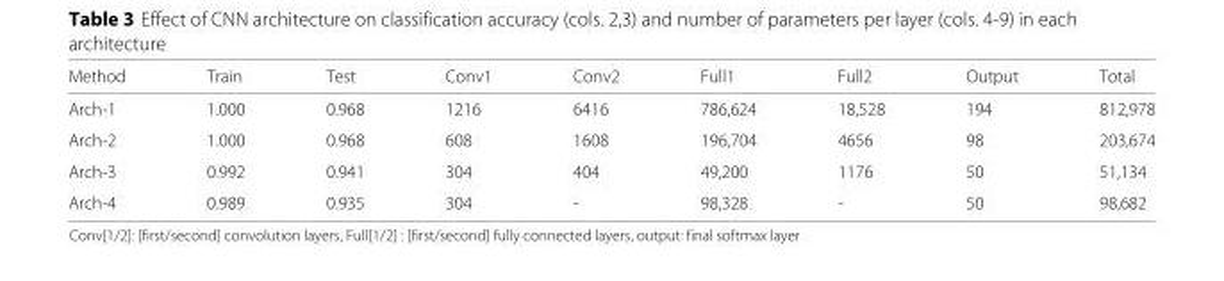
<table><thead><tr><td>Method</td><td>Train</td><td>Test</td><td>Conv1</td><td>Conv2</td><td>Full1</td><td>Full2</td><td>Output</td><td>Total</td></tr></thead><tbody><tr><td>Arch-1</td><td>1.000</td><td>0.968</td><td>1216</td><td>6416</td><td>786,624</td><td>18,528</td><td>194</td><td>812,978</td></tr><tr><td>Arch-2</td><td>1.000</td><td>0.968</td><td>608</td><td>1608</td><td>196,704</td><td>4656</td><td>98</td><td>203,674</td></tr><tr><td>Arch-3</td><td>0.992</td><td>0.941</td><td>304</td><td>404</td><td>49,200</td><td>1176</td><td>50</td><td>51,134</td></tr><tr><td>Arch-4</td><td>0.989</td><td>0.935</td><td>304</td><td>-</td><td>98,328</td><td>-</td><td>50</td><td>98,682</td></tr></tbody></table>